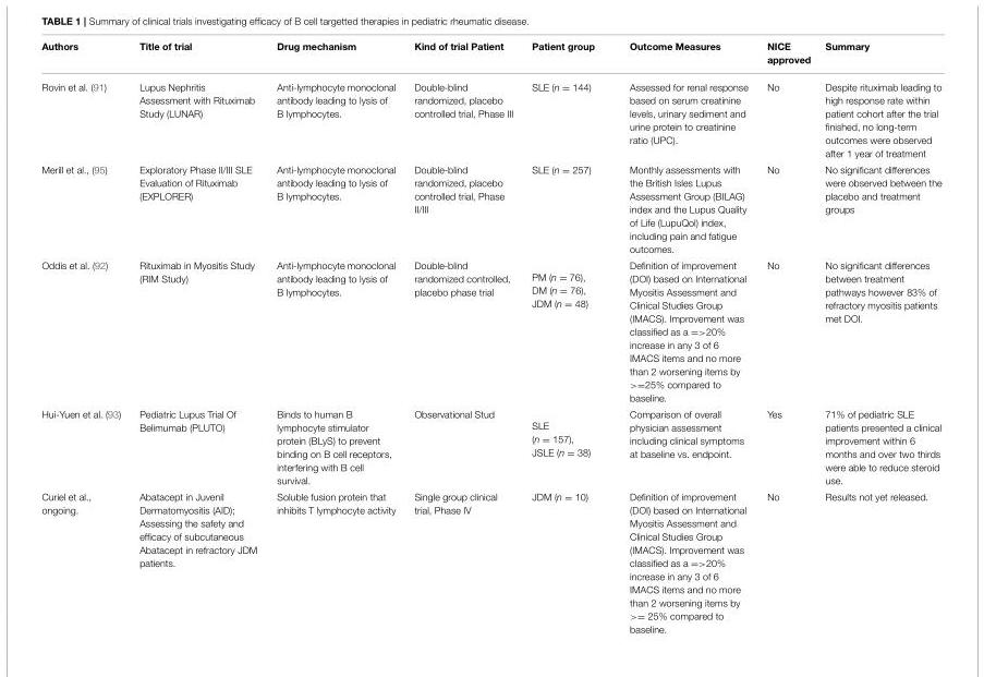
<table><thead><tr><td>Authors</td><td>Title of trial</td><td>Drug mechanism</td><td>Kind of trial Patient</td><td>Patient group</td><td>Outcome Measures</td><td>NICE approved</td><td>Summary</td></tr></thead><tbody><tr><td>Rovin et al. (91)</td><td>Lupus Nephritis Assessment with Rituximab Study (LUNAR)</td><td>Anti-lymphocyte monoclonal antibody leading to lysis of B lymphocytes.</td><td>Double-blind randomized, placebo controlled trial, Phase III</td><td>SLE (n = 144)</td><td>Assessed for renal response based on serum creatinine levels, urinary sediment and urine protein to creatinine ratio (UPC).</td><td>No</td><td>Despite rituximab leading to high response rate within patient cohort after the trial finished, no long-term outcomes were observed after 1 year of treatment</td></tr><tr><td>Merill et al., (95)</td><td>Exploratory Phase II/III SLE Evaluation of Rituximab (EXPLORER)</td><td>Anti-lymphocyte monoclonal antibody leading to lysis of B lymphocytes.</td><td>Double-blind randomized, placebo controlled trial, Phase II/III</td><td>SLE (n = 257)</td><td>Monthly assessments with the British Isles Lupus Assessment Group (BILAG) index and the Lupus Quality of Life (LupuQol) index, including pain and fatigue outcomes.</td><td>No</td><td>No significant differences were observed between the placebo and treatment groups</td></tr><tr><td>Oddis et al. (92)</td><td>Rituximab in Myositis Study (RIM Study)</td><td>Anti-lymphocyte monoclonal antibody leading to lysis of B lymphocytes.</td><td>Double-blind randomized controlled, placebo phase trial</td><td>PM (n = 76), DM (n = 76), JDM (n = 48)</td><td>Definition of improvement (DOI) based on International Myositis Assessment and Clinical Studies Group (IMACS). Improvement was classified as a =&gt;20% increase in any 3 of 6 IMACS items and no more than 2 worsening items by &gt;=25% compared to baseline.</td><td>No</td><td>No significant differences between treatment pathways however 83% of refractory myositis patients met DOI.</td></tr><tr><td>Hui-Yuen et al. (93)</td><td>Pediatric Lupus Trial Of Belimumab (PLUTO)</td><td>Binds to human B lymphocyte stimulator protein (BLyS) to prevent binding on B cell receptors, interfering with B cell survival.</td><td>Observational Stud</td><td>SLE (n = 157), JSLE (n = 38)</td><td>Comparison of overall physician assessment including clinical symptoms at baseline vs. endpoint.</td><td>Yes</td><td>71% of pediatric SLE patients presented a clinical improvement within 6 months and over two thirds were able to reduce steroid use.</td></tr><tr><td>Curiel et al., ongoing.</td><td>Abatacept in Juvenil Dermatomyositis (AID); Assessing the safety and efficacy of subcutaneous Abatacept in refractory JDM patients.</td><td>Soluble fusion protein that inhibits T lymphocyte activity</td><td>Single group clinical trial, Phase IV</td><td>JDM (n = 10)</td><td>Definition of improvement (DOI) based on International Myositis Assessment and Clinical Studies Group (IMACS). Improvement was classified as a =&gt;20% increase in any 3 of 6 IMACS items and no more than 2 worsening items by &gt;= 25% compared to baseline.</td><td>No</td><td>Results not yet released.</td></tr></tbody></table>